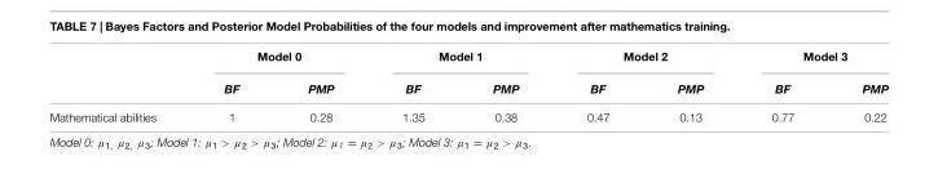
<table><thead><tr><td rowspan="2"></td><td colspan="2">Model 0</td><td colspan="2">Model 1</td><td colspan="2">Model 2</td><td colspan="2">Model 3</td></tr><tr><td>BF</td><td>PMP</td><td>BF</td><td>PMP</td><td>BF</td><td>PMP</td><td>BF</td><td>PMP</td></tr></thead><tbody><tr><td>Mathematical abilities</td><td>1</td><td>0.28</td><td>1.35</td><td>0.38</td><td>0.47</td><td>0.13</td><td>0.77</td><td>0.22</td></tr></tbody></table>